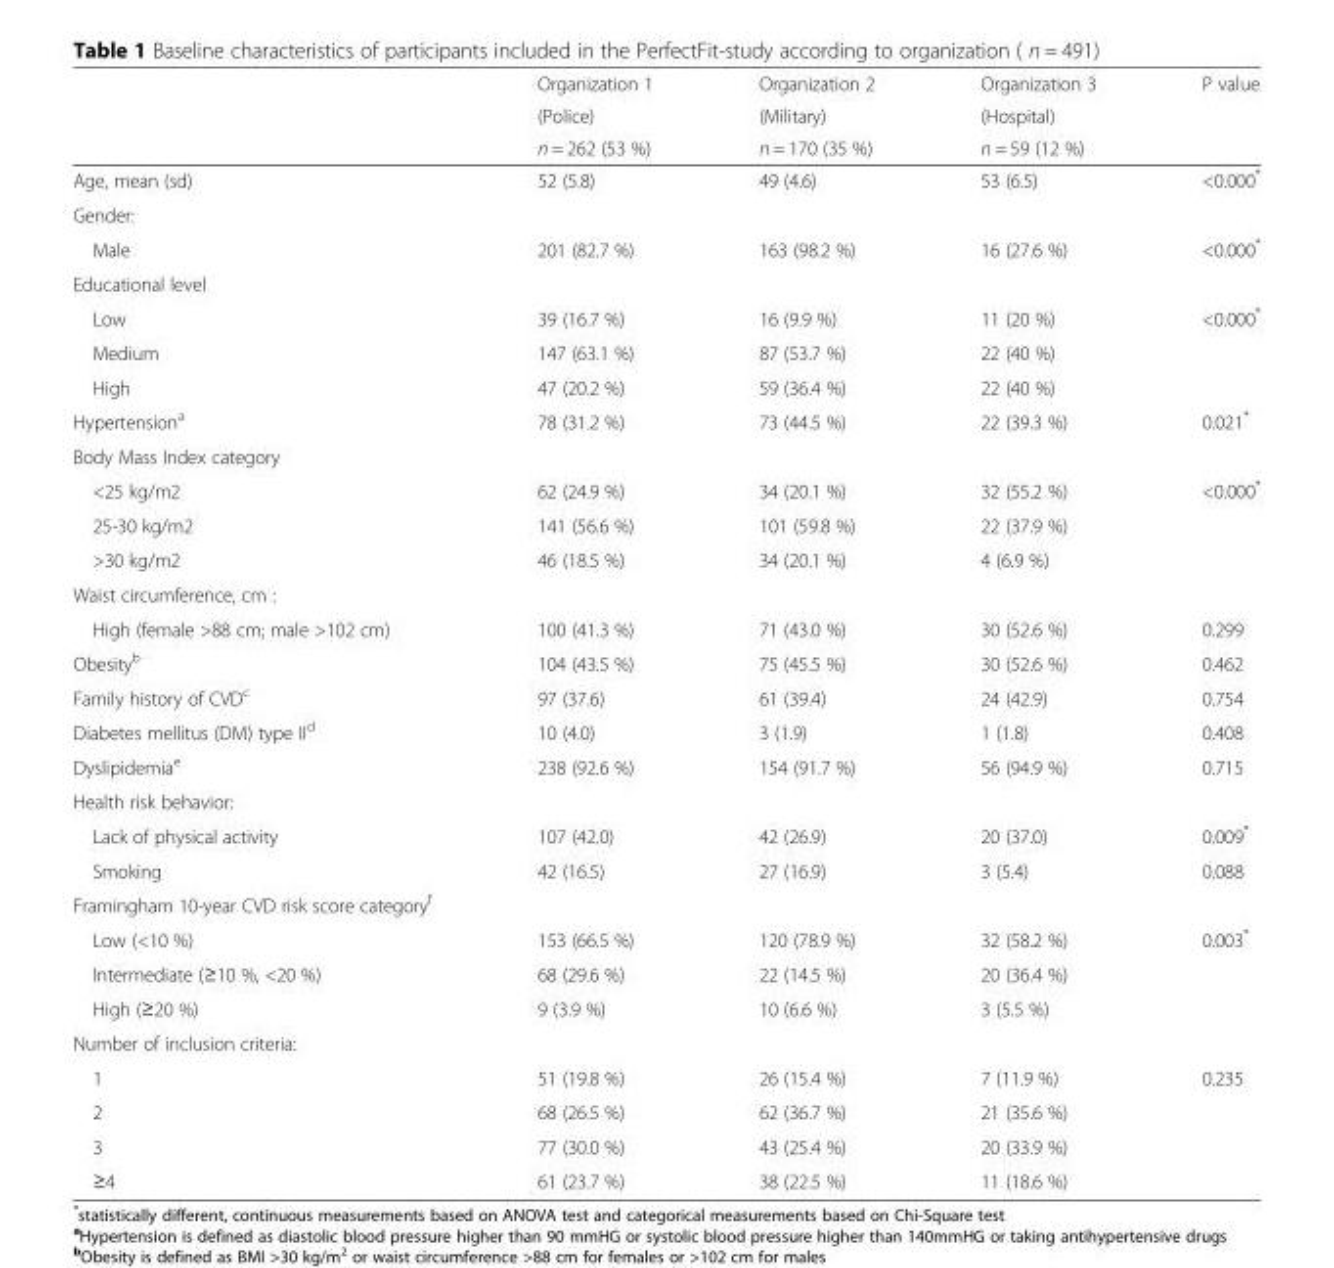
<table><thead><tr><td rowspan="3"></td><td rowspan="3">Organization 1 (Police) n = 262 (53 %)</td><td rowspan="3">Organization 2 (Military) n = 170 (35 %)</td><td rowspan="3">Organization 3 (Hospital) n = 59 (12 %)</td><td rowspan="3">P value</td></tr><tr></tr><tr></tr></thead><tbody><tr><td>Age, mean (sd)</td><td>52 (5.8)</td><td>49 (4.6)</td><td>53 (6.5)</td><td>&lt;0.000*</td></tr><tr><td colspan="5">Gender:</td></tr><tr><td>Male</td><td>201 (82.7 %)</td><td>163 (98.2 %)</td><td>16 (27.6 %)</td><td>&lt;0.000*</td></tr><tr><td colspan="5">Educational level</td></tr><tr><td>Low</td><td>39 (16.7 %)</td><td>16 (9.9 %)</td><td>11 (20 %)</td><td>&lt;0.000*</td></tr><tr><td>Medium</td><td>147 (63.1 %)</td><td>87 (53.7 %)</td><td>22 (40 %)</td><td></td></tr><tr><td>High</td><td>47 (20.2 %)</td><td>59 (36.4 %)</td><td>22 (40 %)</td><td></td></tr><tr><td>Hypertension<sup>a</sup></td><td>78 (31.2 %)</td><td>73 (44.5 %)</td><td>22 (39.3 %)</td><td>0.021*</td></tr><tr><td colspan="5">Body Mass Index category</td></tr><tr><td>&lt;25 kg/m2</td><td>62 (24.9 %)</td><td>34 (20.1 %)</td><td>32 (55.2 %)</td><td rowspan="3">&lt;0.000*</td></tr><tr><td>25-30 kg/m2</td><td>141 (56.6 %)</td><td>101 (59.8 %)</td><td>22 (37.9 %)</td></tr><tr><td>&gt;30 kg/m2</td><td>46 (18.5 %)</td><td>34 (20.1 %)</td><td>4 (6.9 %)</td></tr><tr><td colspan="5">Waist circumference, cm :</td></tr><tr><td>High (female &gt;88 cm; male &gt;102 cm)</td><td>100 (41.3 %)</td><td>71 (43.0 %)</td><td>30 (52.6 %)</td><td>0.299</td></tr><tr><td>Obesity<sup>b</sup></td><td>104 (43.5 %)</td><td>75 (45.5 %)</td><td>30 (52.6 %)</td><td>0.462</td></tr><tr><td>Family history of CVD<sup>c</sup></td><td>97 (37.6)</td><td>61 (39.4)</td><td>24 (42.9)</td><td>0.754</td></tr><tr><td>Diabetes mellitus (DM) type II<sup>d</sup></td><td>10 (4.0)</td><td>3 (1.9)</td><td>1 (1.8)</td><td>0.408</td></tr><tr><td>Dyslipidemia<sup>e</sup></td><td>238 (92.6 %)</td><td>154 (91.7 %)</td><td>56 (94.9 %)</td><td>0.715</td></tr><tr><td colspan="5">Health risk behavior:</td></tr><tr><td>Lack of physical activity</td><td>107 (42.0)</td><td>42 (26.9)</td><td>20 (37.0)</td><td>0.009*</td></tr><tr><td>Smoking</td><td>42 (16.5)</td><td>27 (16.9)</td><td>3 (5.4)</td><td>0.088</td></tr><tr><td colspan="5">Framingham 10-year CVD risk score category<sup>f</sup></td></tr><tr><td>Low (&lt;10 %)</td><td>153 (66.5 %)</td><td>120 (78.9 %)</td><td>32 (58.2 %)</td><td rowspan="3">0.003*</td></tr><tr><td>Intermediate (≥10 %, &lt;20 %)</td><td>68 (29.6 %)</td><td>22 (14.5 %)</td><td>20 (36.4 %)</td></tr><tr><td>High (≥20 %)</td><td>9 (3.9 %)</td><td>10 (6.6 %)</td><td>3 (5.5 %)</td></tr><tr><td colspan="5">Number of inclusion criteria:</td></tr><tr><td>1</td><td>51 (19.8 %)</td><td>26 (15.4 %)</td><td>7 (11.9 %)</td><td>0.235</td></tr><tr><td>2</td><td>68 (26.5 %)</td><td>62 (36.7 %)</td><td>21 (35.6 %)</td><td></td></tr><tr><td>3</td><td>77 (30.0 %)</td><td>43 (25.4 %)</td><td>20 (33.9 %)</td><td></td></tr><tr><td>≥4</td><td>61 (23.7 %)</td><td>38 (22.5 %)</td><td>11 (18.6 %)</td><td></td></tr></tbody></table>